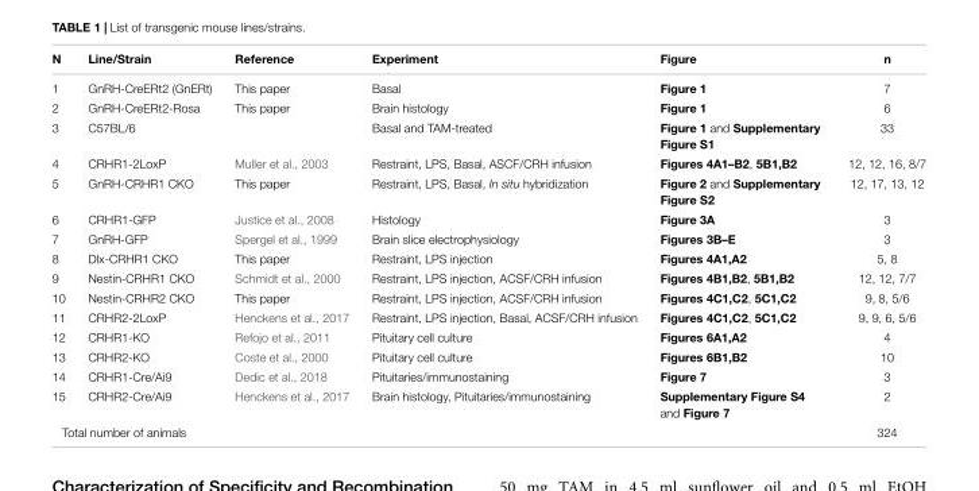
<table><thead><tr><td>N</td><td>Line/Strain</td><td>Reference</td><td>Experiment</td><td>Figure</td><td>n</td></tr></thead><tbody><tr><td>1</td><td>GnRH-CreERt2 (GnERt)</td><td>This paper</td><td>Basal</td><td>Figure 1</td><td>7</td></tr><tr><td>2</td><td>GnRH-CreERt2-Rosa</td><td>This paper</td><td>Brain histology</td><td>Figure 1</td><td>6</td></tr><tr><td>3</td><td>C57BL/6</td><td></td><td>Basal and TAM-treated</td><td>Figure 1 and Supplementary Figure S1</td><td>33</td></tr><tr><td>4</td><td>CRHR1-2LoxP</td><td>Muller et al., 2003</td><td>Restraint, LPS, Basal, ASCF/CRH infusion</td><td>Figures 4A1–B2, 5B1,B2</td><td>12, 12, 16, 8/7</td></tr><tr><td>5</td><td>GnRH-CRHR1 CKO</td><td>This paper</td><td>Restraint, LPS, Basal, In situ hybridization</td><td>Figure 2 and Supplementary Figure S2</td><td>12, 17, 13, 12</td></tr><tr><td>6</td><td>CRHR1-GFP</td><td>Justice et al., 2008</td><td>Histology</td><td>Figure 3A</td><td>3</td></tr><tr><td>7</td><td>GnRH-GFP</td><td>Spergel et al., 1999</td><td>Brain slice electrophysiology</td><td>Figures 3B–E</td><td>3</td></tr><tr><td>8</td><td>Dlx-CRHR1 CKO</td><td>This paper</td><td>Restraint, LPS injection</td><td>Figures 4A1,A2</td><td>5, 8</td></tr><tr><td>9</td><td>Nestin-CRHR1 CKO</td><td>Schmidt et al., 2000</td><td>Restraint, LPS injection, ACSF/CRH infusion</td><td>Figures 4B1,B2, 5B1,B2</td><td>12, 12, 7/7</td></tr><tr><td>10</td><td>Nestin-CRHR2 CKO</td><td>This paper</td><td>Restraint, LPS injection, ACSF/CRH infusion</td><td>Figures 4C1,C2, 5C1,C2</td><td>9, 8, 5/6</td></tr><tr><td>11</td><td>CRHR2-2LoxP</td><td>Henckens et al., 2017</td><td>Restraint, LPS injection, Basal, ACSF/CRH infusion</td><td>Figures 4C1,C2, 5C1,C2</td><td>9, 9, 6, 5/6</td></tr><tr><td>12</td><td>CRHR1-KO</td><td>Refojo et al., 2011</td><td>Pituitary cell culture</td><td>Figures 6A1,A2</td><td>4</td></tr><tr><td>13</td><td>CRHR2-KO</td><td>Coste et al., 2000</td><td>Pituitary cell culture</td><td>Figures 6B1,B2</td><td>10</td></tr><tr><td>14</td><td>CRHR1-Cre/Ai9</td><td>Dedic et al., 2018</td><td>Pituitaries/immunostaining</td><td>Figure 7</td><td>3</td></tr><tr><td>15</td><td>CRHR2-Cre/Ai9</td><td>Henckens et al., 2017</td><td>Brain histology, Pituitaries/immunostaining</td><td>Supplementary Figure S4 and Figure 7</td><td>2</td></tr><tr><td colspan="5">Total number of animals</td><td>324</td></tr></tbody></table>